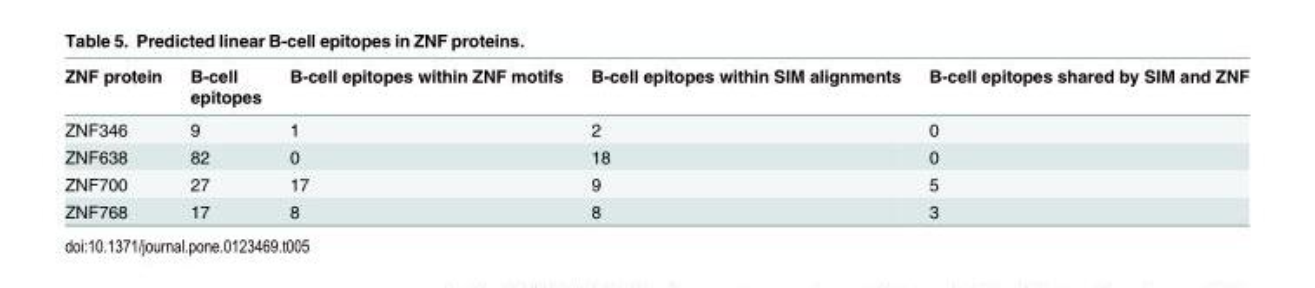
<table><thead><tr><td>ZNF protein</td><td>B-cell epitopes</td><td>B-cell epitopes within ZNF motifs</td><td>B-cell epitopes within SIM alignments</td><td>B-cell epitopes shared by SIM and ZNF</td></tr></thead><tbody><tr><td>ZNF346</td><td>9</td><td>1</td><td>2</td><td>0</td></tr><tr><td>ZNF638</td><td>82</td><td>0</td><td>18</td><td>0</td></tr><tr><td>ZNF700</td><td>27</td><td>17</td><td>9</td><td>5</td></tr><tr><td>ZNF768</td><td>17</td><td>8</td><td>8</td><td>3</td></tr></tbody></table>